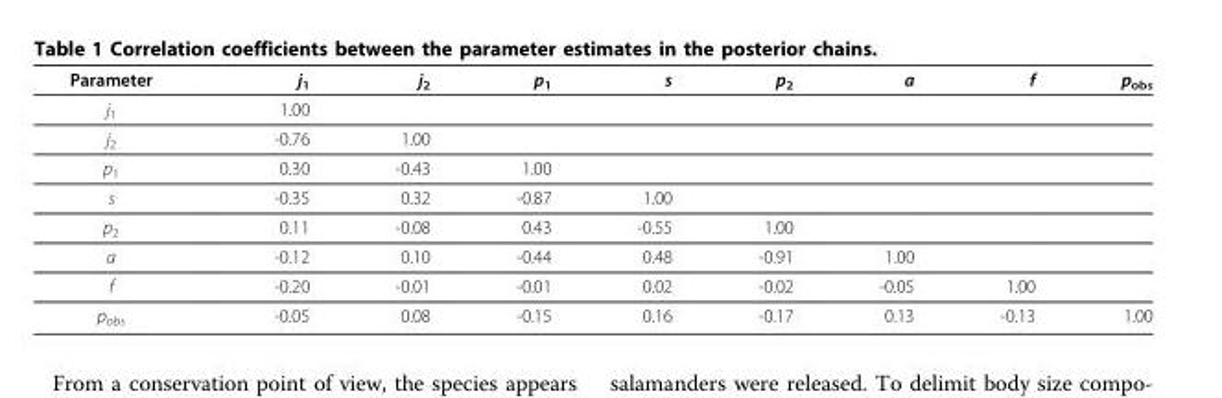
<table><thead><tr><td>Parameter</td><td>j<sub>1</sub></td><td>j<sub>2</sub></td><td>p<sub>1</sub></td><td>s</td><td>p<sub>2</sub></td><td>a</td><td>f</td><td>p<sub>obs</sub></td></tr></thead><tbody><tr><td>j<sub>1</sub></td><td>1.00</td><td></td><td></td><td></td><td></td><td></td><td></td><td></td></tr><tr><td>j<sub>2</sub></td><td>-0.76</td><td>1.00</td><td></td><td></td><td></td><td></td><td></td><td></td></tr><tr><td>p<sub>1</sub></td><td>0.30</td><td>-0.43</td><td>1.00</td><td></td><td></td><td></td><td></td><td></td></tr><tr><td>s</td><td>-0.35</td><td>0.32</td><td>-0.87</td><td>1.00</td><td></td><td></td><td></td><td></td></tr><tr><td>p<sub>2</sub></td><td>0.11</td><td>-0.08</td><td>0.43</td><td>-0.55</td><td>1.00</td><td></td><td></td><td></td></tr><tr><td>a</td><td>-0.12</td><td>0.10</td><td>-0.44</td><td>0.48</td><td>-0.91</td><td>1.00</td><td></td><td></td></tr><tr><td>f</td><td>-0.20</td><td>-0.01</td><td>-0.01</td><td>0.02</td><td>-0.02</td><td>-0.05</td><td>1.00</td><td></td></tr><tr><td>p<sub>obs</sub></td><td>-0.05</td><td>0.08</td><td>-0.15</td><td>0.16</td><td>-0.17</td><td>0.13</td><td>-0.13</td><td>1.00</td></tr></tbody></table>